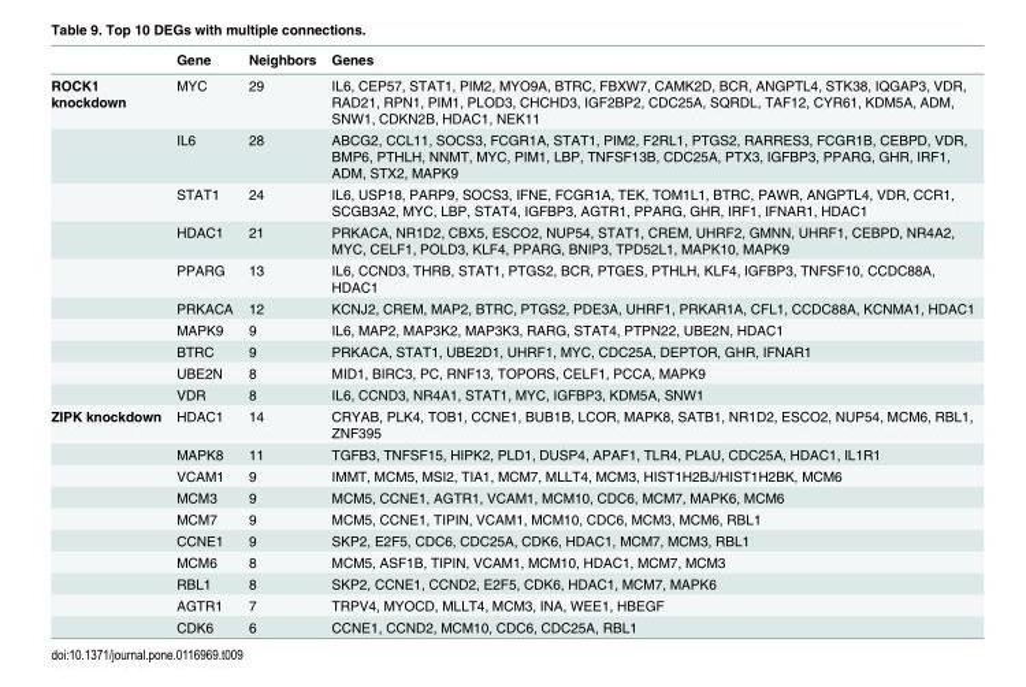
<table><thead><tr><td></td><td>Gene</td><td>Neighbors</td><td>Genes</td></tr></thead><tbody><tr><td rowspan="10">ROCK1 knockdown</td><td>MYC</td><td>29</td><td>IL6, CEP57, STAT1, PIM2, MYO9A, BTRC, FBXW7, CAMK2D, BCR, ANGPTL4, STK38, IQGAP3, VDR, RAD21, RPN1, PIM1, PLOD3, CHCHD3, IGF2BP2, CDC25A, SQRDL, TAF12, CYR61, KDM5A, ADM, SNW1, CDKN2B, HDAC1, NEK11</td></tr><tr><td>IL6</td><td>28</td><td>ABCG2, CCL11, SOCS3, FCGR1A, STAT1, PIM2, F2RL1, PTGS2, RARRES3, FCGR1B, CEBPD, VDR, BMP6, PTHLH, NNMT, MYC, PIM1, LBP, TNFSF13B, CDC25A, PTX3, IGFBP3, PPARG, GHR, IRF1, ADM, STX2, MAPK9</td></tr><tr><td>STAT1</td><td>24</td><td>IL6, USP18, PARP9, SOCS3, IFNE, FCGR1A, TEK, TOM1L1, BTRC, PAWR, ANGPTL4, VDR, CCR1, SCGB3A2, MYC, LBP, STAT4, IGFBP3, AGTR1, PPARG, GHR, IRF1, IFNAR1, HDAC1</td></tr><tr><td>HDAC1</td><td>21</td><td>PRKACA, NR1D2, CBX5, ESCO2, NUP54, STAT1, CREM, UHRF2, GMNN, UHRF1, CEBPD, NR4A2, MYC, CELF1, POLD3, KLF4, PPARG, BNIP3, TPD52L1, MAPK10, MAPK9</td></tr><tr><td>PPARG</td><td>13</td><td>IL6, CCND3, THRB, STAT1, PTGS2, BCR, PTGES, PTHLH, KLF4, IGFBP3, TNFSF10, CCDC88A, HDAC1</td></tr><tr><td>PRKACA</td><td>12</td><td>KCNJ2, CREM, MAP2, BTRC, PTGS2, PDE3A, UHRF1, PRKAR1A, CFL1, CCDC88A, KCNMA1, HDAC1</td></tr><tr><td>MAPK9</td><td>9</td><td>IL6, MAP2, MAP3K2, MAP3K3, RARG, STAT4, PTPN22, UBE2N, HDAC1</td></tr><tr><td>BTRC</td><td>9</td><td>PRKACA, STAT1, UBE2D1, UHRF1, MYC, CDC25A, DEPTOR, GHR, IFNAR1</td></tr><tr><td>UBE2N</td><td>8</td><td>MID1, BIRC3, PC, RNF13, TOPORS, CELF1, PCCA, MAPK9</td></tr><tr><td>VDR</td><td>8</td><td>IL6, CCND3, NR4A1, STAT1, MYC, IGFBP3, KDM5A, SNW1</td></tr><tr><td rowspan="10">ZIPK knockdown</td><td>HDAC1</td><td>14</td><td>CRYAB, PLK4, TOB1, CCNE1, BUB1B, LCOR, MAPK8, SATB1, NR1D2, ESCO2, NUP54, MCM6, RBL1, ZNF395</td></tr><tr><td>MAPK8</td><td>11</td><td>TGFB3, TNFSF15, HIPK2, PLD1, DUSP4, APAF1, TLR4, PLAU, CDC25A, HDAC1, IL1R1</td></tr><tr><td>VCAM1</td><td>9</td><td>IMMT, MCM5, MSI2, TIA1, MCM7, MLLT4, MCM3, HIST1H2BJ/HIST1H2BK, MCM6</td></tr><tr><td>MCM3</td><td>9</td><td>MCM5, CCNE1, AGTR1, VCAM1, MCM10, CDC6, MCM7, MAPK6, MCM6</td></tr><tr><td>MCM7</td><td>9</td><td>MCM5, CCNE1, TIPIN, VCAM1, MCM10, CDC6, MCM3, MCM6, RBL1</td></tr><tr><td>CCNE1</td><td>9</td><td>SKP2, E2F5, CDC6, CDC25A, CDK6, HDAC1, MCM7, MCM3, RBL1</td></tr><tr><td>MCM6</td><td>8</td><td>MCM5, ASF1B, TIPIN, VCAM1, MCM10, HDAC1, MCM7, MCM3</td></tr><tr><td>RBL1</td><td>8</td><td>SKP2, CCNE1, CCND2, E2F5, CDK6, HDAC1, MCM7, MAPK6</td></tr><tr><td>AGTR1</td><td>7</td><td>TRPV4, MYOCD, MLLT4, MCM3, INA, WEE1, HBEGF</td></tr><tr><td>CDK6</td><td>6</td><td>CCNE1, CCND2, MCM10, CDC6, CDC25A, RBL1</td></tr></tbody></table>